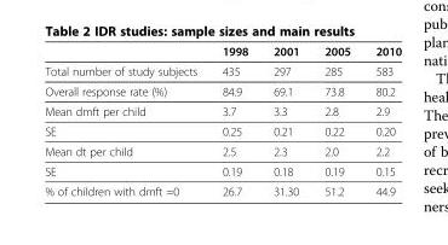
<table><thead><tr><td></td><td>1998</td><td>2001</td><td>2005</td><td>2010</td></tr></thead><tbody><tr><td>Total number of study subjects</td><td>435</td><td>297</td><td>285</td><td>583</td></tr><tr><td>Overall response rate (%)</td><td>84.9</td><td>69.1</td><td>73.8</td><td>80.2</td></tr><tr><td>Mean dmft per child</td><td>3.7</td><td>3.3</td><td>2.8</td><td>2.9</td></tr><tr><td>SE</td><td>0.25</td><td>0.21</td><td>0.22</td><td>0.20</td></tr><tr><td>Mean dt per child</td><td>2.5</td><td>2.3</td><td>2.0</td><td>2.2</td></tr><tr><td>SE</td><td>0.19</td><td>0.18</td><td>0.19</td><td>0.15</td></tr><tr><td>% of children with dmft =0</td><td>26.7</td><td>31.30</td><td>51.2</td><td>44.9</td></tr></tbody></table>